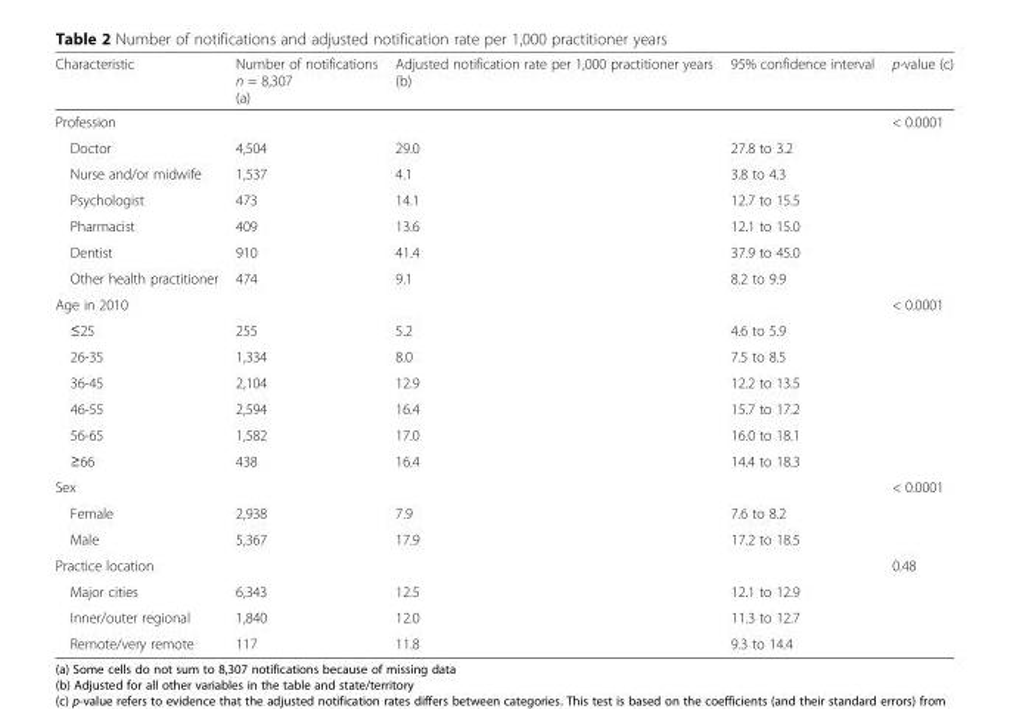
<table><thead><tr><td>Characteristic</td><td>Number of notifications n = 8,307 (a)</td><td>Adjusted notification rate per 1,000 practitioner years (b)</td><td>95% confidence interval</td><td>p-value (c)</td></tr></thead><tbody><tr><td>Profession</td><td></td><td></td><td></td><td>&lt; 0.0001</td></tr><tr><td>Doctor</td><td>4,504</td><td>29.0</td><td>27.8 to 3.2</td><td></td></tr><tr><td>Nurse and/or midwife</td><td>1,537</td><td>4.1</td><td>3.8 to 4.3</td><td></td></tr><tr><td>Psychologist</td><td>473</td><td>14.1</td><td>12.7 to 15.5</td><td></td></tr><tr><td>Pharmacist</td><td>409</td><td>13.6</td><td>12.1 to 15.0</td><td></td></tr><tr><td>Dentist</td><td>910</td><td>41.4</td><td>37.9 to 45.0</td><td></td></tr><tr><td>Other health practitioner</td><td>474</td><td>9.1</td><td>8.2 to 9.9</td><td></td></tr><tr><td>Age in 2010</td><td></td><td></td><td></td><td>&lt; 0.0001</td></tr><tr><td>≤25</td><td>255</td><td>5.2</td><td>4.6 to 5.9</td><td></td></tr><tr><td>26-35</td><td>1,334</td><td>8.0</td><td>7.5 to 8.5</td><td></td></tr><tr><td>36-45</td><td>2,104</td><td>12.9</td><td>12.2 to 13.5</td><td></td></tr><tr><td>46-55</td><td>2,594</td><td>16.4</td><td>15.7 to 17.2</td><td></td></tr><tr><td>56-65</td><td>1,582</td><td>17.0</td><td>16.0 to 18.1</td><td></td></tr><tr><td>≥66</td><td>438</td><td>16.4</td><td>14.4 to 18.3</td><td></td></tr><tr><td>Sex</td><td></td><td></td><td></td><td>&lt; 0.0001</td></tr><tr><td>Female</td><td>2,938</td><td>7.9</td><td>7.6 to 8.2</td><td></td></tr><tr><td>Male</td><td>5,367</td><td>17.9</td><td>17.2 to 18.5</td><td></td></tr><tr><td>Practice location</td><td></td><td></td><td></td><td>0.48</td></tr><tr><td>Major cities</td><td>6,343</td><td>12.5</td><td>12.1 to 12.9</td><td></td></tr><tr><td>Inner/outer regional</td><td>1,840</td><td>12.0</td><td>11.3 to 12.7</td><td></td></tr><tr><td>Remote/very remote</td><td>117</td><td>11.8</td><td>9.3 to 14.4</td><td></td></tr></tbody></table>